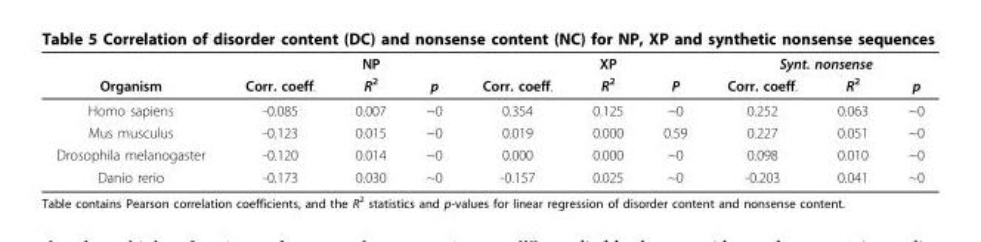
<table><thead><tr><td rowspan="2">Organism</td><td rowspan="2">Corr. coeff.</td><td rowspan="2">NP R<sup>2</sup></td><td rowspan="2">p</td><td rowspan="2">Corr. coeff.</td><td rowspan="2">XP R<sup>2</sup></td><td rowspan="2">P</td><td colspan="3">Synt. nonsense</td></tr><tr><td>Corr. coeff.</td><td>R<sup>2</sup></td><td>p</td></tr></thead><tbody><tr><td>Homo sapiens</td><td>-0.085</td><td>0.007</td><td>~0</td><td>0.354</td><td>0.125</td><td>~0</td><td>0.252</td><td>0.063</td><td>~0</td></tr><tr><td>Mus musculus</td><td>-0.123</td><td>0.015</td><td>~0</td><td>0.019</td><td>0.000</td><td>0.59</td><td>0.227</td><td>0.051</td><td>~0</td></tr><tr><td>Drosophila melanogaster</td><td>-0.120</td><td>0.014</td><td>~0</td><td>0.000</td><td>0.000</td><td>~0</td><td>0.098</td><td>0.010</td><td>~0</td></tr><tr><td>Danio rerio</td><td>-0.173</td><td>0.030</td><td>~0</td><td>-0.157</td><td>0.025</td><td>~0</td><td>-0.203</td><td>0.041</td><td>~0</td></tr></tbody></table>